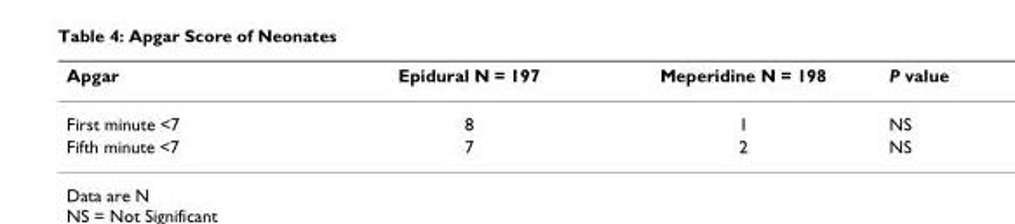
<table><thead><tr><td>Apgar</td><td>Epidural N = 197</td><td>Meperidine N = 198</td><td>P value</td></tr></thead><tbody><tr><td>First minute &lt;7</td><td>8</td><td>1</td><td>NS</td></tr><tr><td>Fifth minute &lt;7</td><td>7</td><td>2</td><td>NS</td></tr></tbody></table>